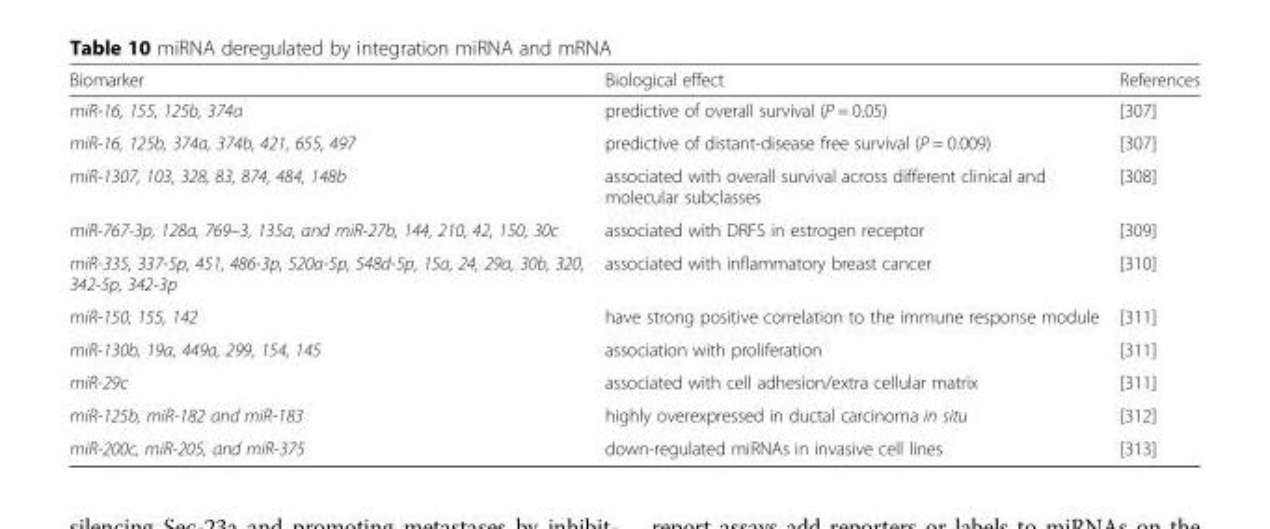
<table><thead><tr><td>Biomarker</td><td>Biological effect</td><td>References</td></tr></thead><tbody><tr><td>miR-16, 155, 125b, 374a</td><td>predictive of overall survival (P = 0.05)</td><td>[307]</td></tr><tr><td>miR-16, 125b, 374a, 374b, 421, 655, 497</td><td>predictive of distant-disease free survival (P = 0.009)</td><td>[307]</td></tr><tr><td>miR-1307, 103, 328, 83, 874, 484, 148b</td><td>associated with overall survival across different clinical and molecular subclasses</td><td>[308]</td></tr><tr><td>miR-767-3p, 128a, 769–3, 135a, and miR-27b, 144, 210, 42, 150, 30c</td><td>associated with DRFS in estrogen receptor</td><td>[309]</td></tr><tr><td>miR-335, 337-5p, 451, 486-3p, 520a-5p, 548d-5p, 15a, 24, 29a, 30b, 320, 342-5p, 342-3p</td><td>associated with inflammatory breast cancer</td><td>[310]</td></tr><tr><td>miR-150, 155, 142</td><td>have strong positive correlation to the immune response module</td><td>[311]</td></tr><tr><td>miR-130b, 19a, 449a, 299, 154, 145</td><td>association with proliferation</td><td>[311]</td></tr><tr><td>miR-29c</td><td>associated with cell adhesion/extra cellular matrix</td><td>[311]</td></tr><tr><td>miR-125b, miR-182 and miR-183</td><td>highly overexpressed in ductal carcinoma in situ</td><td>[312]</td></tr><tr><td>miR-200c, miR-205, and miR-375</td><td>down-regulated miRNAs in invasive cell lines</td><td>[313]</td></tr></tbody></table>